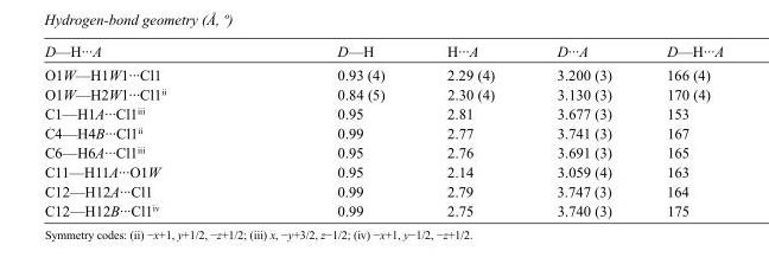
<table><tbody><tr><td>D—H···A</td><td>D—H</td><td>H···A</td><td>D···A</td><td>D—H···A</td></tr><tr><td>O1W—H1W1···Cl1</td><td>0.93 (4)</td><td>2.29 (4)</td><td>3.200 (3)</td><td>166 (4)</td></tr><tr><td>O1W—H2W1···Cl1<sup>ii</sup></td><td>0.84 (5)</td><td>2.30 (4)</td><td>3.130 (3)</td><td>170 (4)</td></tr><tr><td>C1—H1A···Cl1<sup>iii</sup></td><td>0.95</td><td>2.81</td><td>3.677 (3)</td><td>153</td></tr><tr><td>C4—H4B···Cl1<sup>ii</sup></td><td>0.99</td><td>2.77</td><td>3.741 (3)</td><td>167</td></tr><tr><td>C6—H6A···Cl1<sup>iii</sup></td><td>0.95</td><td>2.76</td><td>3.691 (3)</td><td>165</td></tr><tr><td>C11—H11A···O1W</td><td>0.95</td><td>2.14</td><td>3.059 (4)</td><td>163</td></tr><tr><td>C12—H12A···Cl1</td><td>0.99</td><td>2.79</td><td>3.747 (3)</td><td>164</td></tr><tr><td>C12—H12B···Cl1<sup>iv</sup></td><td>0.99</td><td>2.75</td><td>3.740 (3)</td><td>175</td></tr></tbody></table>